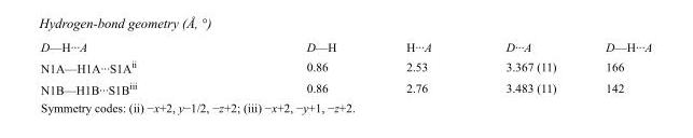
<table><tbody><tr><td>D—H···A</td><td>D—H</td><td>H···A</td><td>D···A</td><td>D—H···A</td></tr><tr><td>N1A—H1A···S1A<sup>ii</sup></td><td>0.86</td><td>2.53</td><td>3.367 (11)</td><td>166</td></tr><tr><td>N1B—H1B···S1B<sup>iii</sup></td><td>0.86</td><td>2.76</td><td>3.483 (11)</td><td>142</td></tr></tbody></table>